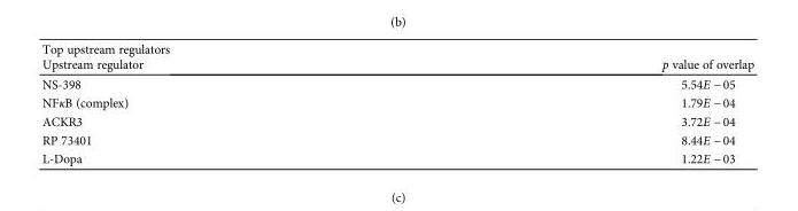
<table><thead><tr><td rowspan="2">Top upstream regulators Upstream regulator</td><td rowspan="2">p value of overlap</td></tr><tr></tr></thead><tbody><tr><td>NS-398</td><td>5.54E − 05</td></tr><tr><td>NFκB (complex)</td><td>1.79E − 04</td></tr><tr><td>ACKR3</td><td>3.72E − 04</td></tr><tr><td>RP 73401</td><td>8.44E − 04</td></tr><tr><td>L-Dopa</td><td>1.22E − 03</td></tr></tbody></table>